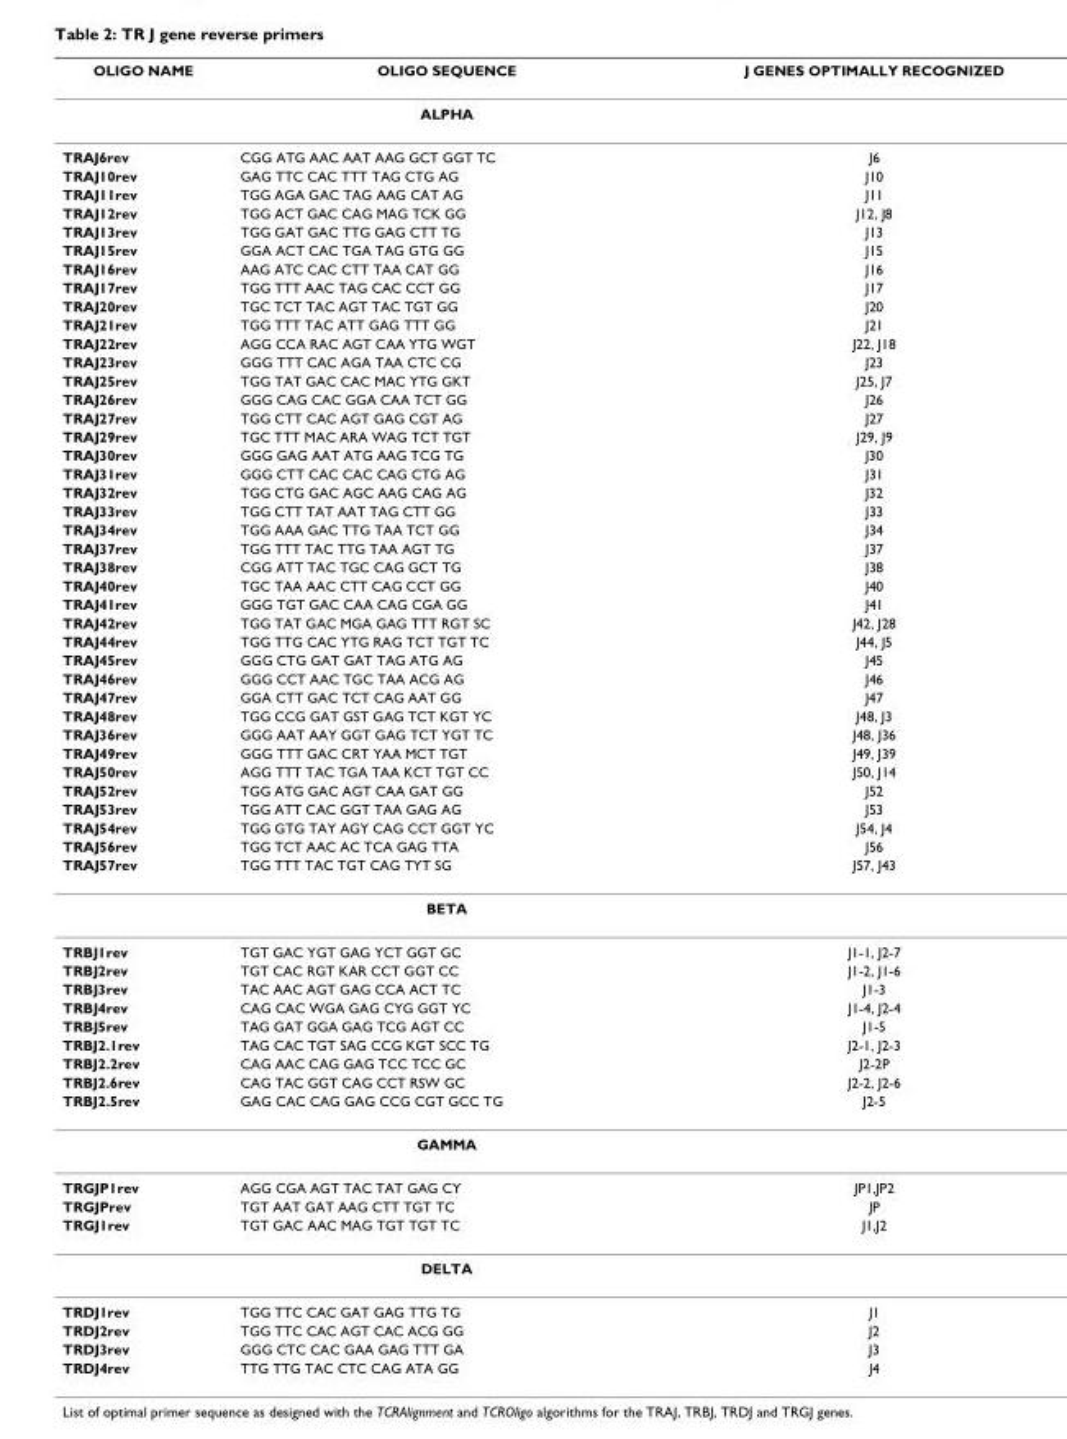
<table><thead><tr><td>OLIGO NAME</td><td>OLIGO SEQUENCE</td><td>J GENES OPTIMALLY RECOGNIZED</td></tr></thead><tbody><tr><td></td><td>ALPHA</td><td></td></tr><tr><td>TRAJ6rev</td><td>CGG ATG AAC AAT AAG GCT GGT TC</td><td>J6</td></tr><tr><td>TRAJ10rev</td><td>GAG TTC CAC TTT TAG CTG AG</td><td>J10</td></tr><tr><td>TRAJ11rev</td><td>TGG AGA GAC TAG AAG CAT AG</td><td>J11</td></tr><tr><td>TRAJ12rev</td><td>TGG ACT GAC CAG MAG TCK GG</td><td>J12, J8</td></tr><tr><td>TRAJ13rev</td><td>TGG GAT GAC TTG GAG CTT TG</td><td>J13</td></tr><tr><td>TRAJ15rev</td><td>GGA ACT CAC TGA TAG GTG GG</td><td>J15</td></tr><tr><td>TRAJ16rev</td><td>AAG ATC CAC CTT TAA CAT GG</td><td>J16</td></tr><tr><td>TRAJ17rev</td><td>TGG TTT AAC TAG CAC CCT GG</td><td>J17</td></tr><tr><td>TRAJ20rev</td><td>TGC TCT TAC AGT TAC TGT GG</td><td>J20</td></tr><tr><td>TRAJ21rev</td><td>TGG TTT TAC ATT GAG TTT GG</td><td>J21</td></tr><tr><td>TRAJ22rev</td><td>AGG CCA RAC AGT CAA YTG WGT</td><td>J22, J18</td></tr><tr><td>TRAJ23rev</td><td>GGG TTT CAC AGA TAA CTC CG</td><td>J23</td></tr><tr><td>TRAJ25rev</td><td>TGG TAT GAC CAC MAC YTG GKT</td><td>J25, J7</td></tr><tr><td>TRAJ26rev</td><td>GGG CAG CAC GGA CAA TCT GG</td><td>J26</td></tr><tr><td>TRAJ27rev</td><td>TGG CTT CAC AGT GAG CGT AG</td><td>J27</td></tr><tr><td>TRAJ29rev</td><td>TGC TTT MAC ARA WAG TCT TGT</td><td>J29, J9</td></tr><tr><td>TRAJ30rev</td><td>GGG GAG AAT ATG AAG TCG TG</td><td>J30</td></tr><tr><td>TRAJ31rev</td><td>GGG CTT CAC CAC CAG CTG AG</td><td>J31</td></tr><tr><td>TRAJ32rev</td><td>TGG CTG GAC AGC AAG CAG AG</td><td>J32</td></tr><tr><td>TRAJ33rev</td><td>TGG CTT TAT AAT TAG CTT GG</td><td>J33</td></tr><tr><td>TRAJ34rev</td><td>TGG AAA GAC TTG TAA TCT GG</td><td>J34</td></tr><tr><td>TRAJ37rev</td><td>TGG TTT TAC TTG TAA AGT TG</td><td>J37</td></tr><tr><td>TRAJ38rev</td><td>CGG ATT TAC TGC CAG GCT TG</td><td>J38</td></tr><tr><td>TRAJ40rev</td><td>TGC TAA AAC CTT CAG CCT GG</td><td>J40</td></tr><tr><td>TRAJ41rev</td><td>GGG TGT GAC CAA CAG CGA GG</td><td>J41</td></tr><tr><td>TRAJ42rev</td><td>TGG TAT GAC MGA GAG TTT RGT SC</td><td>J42, J28</td></tr><tr><td>TRAJ44rev</td><td>TGG TTG CAC YTG RAG TCT TGT TC</td><td>J44, J5</td></tr><tr><td>TRAJ45rev</td><td>GGG CTG GAT GAT TAG ATG AG</td><td>J45</td></tr><tr><td>TRAJ46rev</td><td>GGG CCT AAC TGC TAA ACG AG</td><td>J46</td></tr><tr><td>TRAJ47rev</td><td>GGA CTT GAC TCT CAG AAT GG</td><td>J47</td></tr><tr><td>TRAJ48rev</td><td>TGG CCG GAT GST GAG TCT KGT YC</td><td>J48, J3</td></tr><tr><td>TRAJ36rev</td><td>GGG AAT AAY GGT GAG TCT YGT TC</td><td>J48, J36</td></tr><tr><td>TRAJ49rev</td><td>GGG TTT GAC CRT YAA MCT TGT</td><td>J49, J39</td></tr><tr><td>TRAJ50rev</td><td>AGG TTT TAC TGA TAA KCT TGT CC</td><td>J50, J14</td></tr><tr><td>TRAJ52rev</td><td>TGG ATG GAC AGT CAA GAT GG</td><td>J52</td></tr><tr><td>TRAJ53rev</td><td>TGG ATT CAC GGT TAA GAG AG</td><td>J53</td></tr><tr><td>TRAJ54rev</td><td>TGG GTG TAY AGY CAG CCT GGT YC</td><td>J54, J4</td></tr><tr><td>TRAJ56rev</td><td>TGG TCT AAC AC TCA GAG TTA</td><td>J56</td></tr><tr><td rowspan="2">TRAJ57rev</td><td>TGG TTT TAC TGT CAG TYT SG</td><td>J57, J43</td></tr><tr><td>BETA</td><td></td></tr><tr><td>TRBJ1rev</td><td>TGT GAC YGT GAG YCT GGT GC</td><td>J1-1, J2-7</td></tr><tr><td>TRBJ2rev</td><td>TGT CAC RGT KAR CCT GGT CC</td><td>J1-2, J1-6</td></tr><tr><td>TRBJ3rev</td><td>TAC AAC AGT GAG CCA ACT TC</td><td>J1-3</td></tr><tr><td>TRBJ4rev</td><td>CAG CAC WGA GAG CYG GGT YC</td><td>J1-4, J2-4</td></tr><tr><td>TRBJ5rev</td><td>TAG GAT GGA GAG TCG AGT CC</td><td>J1-5</td></tr><tr><td>TRBJ2.1rev</td><td>TAG CAC TGT SAG CCG KGT SCC TG</td><td>J2-1, J2-3</td></tr><tr><td>TRBJ2.2rev</td><td>CAG AAC CAG GAG TCC TCC GC</td><td>J2-2P</td></tr><tr><td>TRBJ2.6rev</td><td>CAG TAC GGT CAG CCT RSW GC</td><td>J2-2, J2-6</td></tr><tr><td rowspan="2">TRBJ2.5rev</td><td>GAG CAC CAG GAG CCG CGT GCC TG</td><td>J2-5</td></tr><tr><td>GAMMA</td><td></td></tr><tr><td>TRGJP1rev</td><td>AGG CGA AGT TAC TAT GAG CY</td><td>JP1,JP2</td></tr><tr><td>TRGJPrev</td><td>TGT AAT GAT AAG CTT TGT TC</td><td>JP</td></tr><tr><td rowspan="2">TRGJ1rev</td><td>TGT GAC AAC MAG TGT TGT TC</td><td>J1,J2</td></tr><tr><td>DELTA</td><td></td></tr><tr><td>TRDJ1rev</td><td>TGG TTC CAC GAT GAG TTG TG</td><td>J1</td></tr><tr><td>TRDJ2rev</td><td>TGG TTC CAC AGT CAC ACG GG</td><td>J2</td></tr><tr><td>TRDJ3rev</td><td>GGG CTC CAC GAA GAG TTT GA</td><td>J3</td></tr><tr><td>TRDJ4rev</td><td>TTG TTG TAC CTC CAG ATA GG</td><td>J4</td></tr></tbody></table>